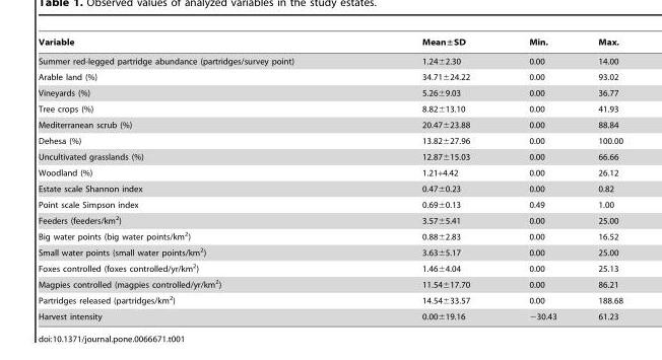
<table><thead><tr><td>Variable</td><td>Mean±SD</td><td>Min.</td><td>Max.</td></tr></thead><tbody><tr><td>Summer red-legged partridge abundance (partridges/survey point)</td><td>1.24±2.30</td><td>0.00</td><td>14.00</td></tr><tr><td>Arable land (%)</td><td>34.71±24.22</td><td>0.00</td><td>93.02</td></tr><tr><td>Vineyards (%)</td><td>5.26±9.03</td><td>0.00</td><td>36.77</td></tr><tr><td>Tree crops (%)</td><td>8.82±13.10</td><td>0.00</td><td>41.93</td></tr><tr><td>Mediterranean scrub (%)</td><td>20.47±23.88</td><td>0.00</td><td>88.84</td></tr><tr><td>Dehesa (%)</td><td>13.82±27.96</td><td>0.00</td><td>100.00</td></tr><tr><td>Uncultivated grasslands (%)</td><td>12.87±15.03</td><td>0.00</td><td>66.66</td></tr><tr><td>Woodland (%)</td><td>1.21+4.42</td><td>0.00</td><td>26.12</td></tr><tr><td>Estate scale Shannon index</td><td>0.47±0.23</td><td>0.00</td><td>0.82</td></tr><tr><td>Point scale Simpson index</td><td>0.69±0.13</td><td>0.49</td><td>1.00</td></tr><tr><td>Feeders (feeders/km<sup>2</sup>)</td><td>3.57±5.41</td><td>0.00</td><td>25.00</td></tr><tr><td>Big water points (big water points/km<sup>2</sup>)</td><td>0.88±2.83</td><td>0.00</td><td>16.52</td></tr><tr><td>Small water points (small water points/km<sup>2</sup>)</td><td>3.63±5.17</td><td>0.00</td><td>25.00</td></tr><tr><td>Foxes controlled (foxes controlled/yr/km<sup>2</sup>)</td><td>1.46±4.04</td><td>0.00</td><td>25.13</td></tr><tr><td>Magpies controlled (magpies controlled/yr/km<sup>2</sup>)</td><td>11.54±17.70</td><td>0.00</td><td>86.21</td></tr><tr><td>Partridges released (partridges/km<sup>2</sup>)</td><td>14.54±33.57</td><td>0.00</td><td>188.68</td></tr><tr><td>Harvest intensity</td><td>0.00±19.16</td><td>−30.43</td><td>61.23</td></tr></tbody></table>